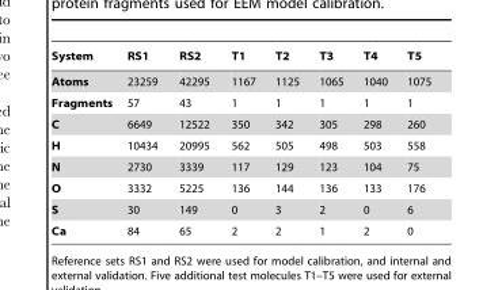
<table><thead><tr><td>System</td><td>RS1</td><td>RS2</td><td>T1</td><td>T2</td><td>T3</td><td>T4</td><td>T5</td></tr></thead><tbody><tr><td>Atoms</td><td>23259</td><td>42295</td><td>1167</td><td>1125</td><td>1065</td><td>1040</td><td>1075</td></tr><tr><td>Fragments</td><td>57</td><td>43</td><td>1</td><td>1</td><td>1</td><td>1</td><td>1</td></tr><tr><td>C</td><td>6649</td><td>12522</td><td>350</td><td>342</td><td>305</td><td>298</td><td>260</td></tr><tr><td>H</td><td>10434</td><td>20995</td><td>562</td><td>505</td><td>498</td><td>503</td><td>558</td></tr><tr><td>N</td><td>2730</td><td>3339</td><td>117</td><td>129</td><td>123</td><td>104</td><td>75</td></tr><tr><td>O</td><td>3332</td><td>5225</td><td>136</td><td>144</td><td>136</td><td>133</td><td>176</td></tr><tr><td>S</td><td>30</td><td>149</td><td>0</td><td>3</td><td>2</td><td>0</td><td>6</td></tr><tr><td>Ca</td><td>84</td><td>65</td><td>2</td><td>2</td><td>1</td><td>2</td><td>0</td></tr></tbody></table>